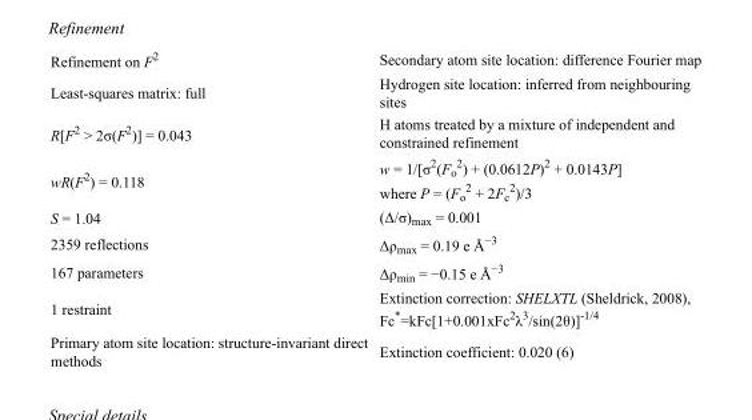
<table><tbody><tr><td>Refinement on F<sup>2</sup></td><td>Secondary atom site location: difference Fourier map</td></tr><tr><td>Least-squares matrix: full</td><td>Hydrogen site location: inferred from neighbouring sites</td></tr><tr><td>R[F<sup>2</sup> &gt; 2σ(F<sup>2</sup>)] = 0.043</td><td>H atoms treated by a mixture of independent and constrained refinement</td></tr><tr><td>wR(F<sup>2</sup>) = 0.118</td><td>w = 1/[σ<sup>2</sup>(F<sub>o</sub> <sup>2</sup>) + (0.0612P)<sup>2</sup> + 0.0143P] where P = (F<sub>o</sub> <sup>2</sup> + 2F<sub>c</sub> <sup>2</sup>)/3</td></tr><tr><td>S = 1.04</td><td>(Δ/σ)<sub>max</sub> = 0.001</td></tr><tr><td>2359 reflections</td><td>Δρ<sub>max</sub> = 0.19 e Å<sup>−3</sup></td></tr><tr><td>167 parameters</td><td>Δρ<sub>min</sub> = −0.15 e Å<sup>−3</sup></td></tr><tr><td>1 restraint</td><td>Extinction correction: SHELXTL (Sheldrick, 2008), Fc*=kFc[1+0.001xFc<sup>2</sup>λ<sup>3</sup>/sin(2θ)]<sup>-1/4</sup></td></tr><tr><td>Primary atom site location: structure-invariant direct methods</td><td>Extinction coefficient: 0.020 (6)</td></tr></tbody></table>